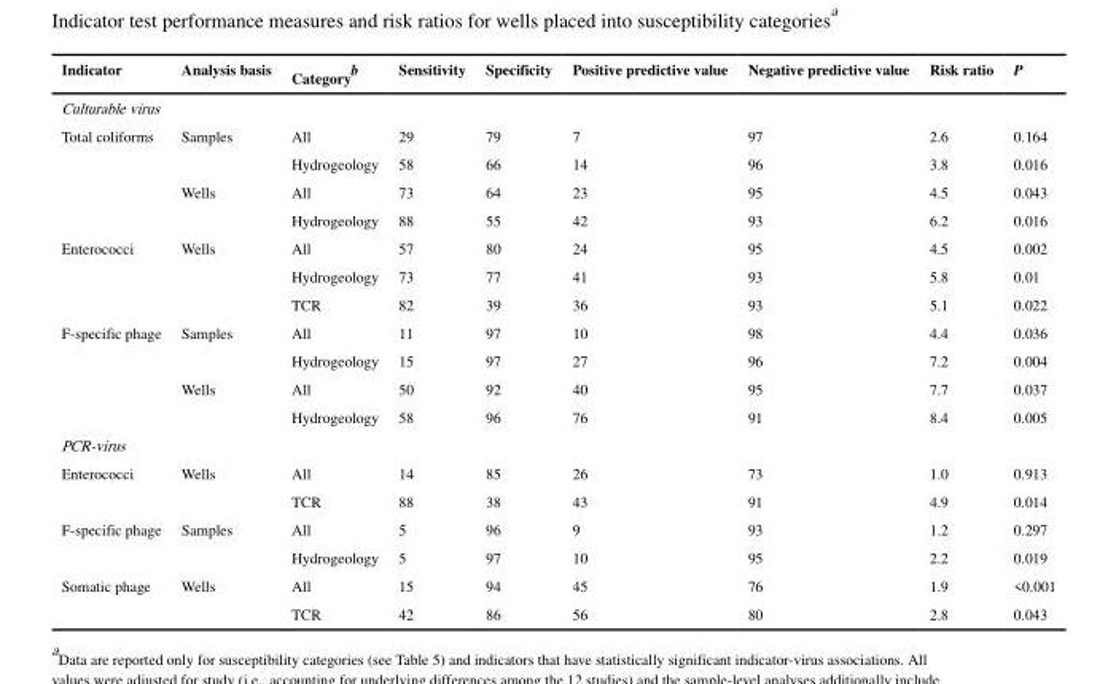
<table><thead><tr><td>Indicator</td><td>Analysis basis</td><td>Category<sup>b</sup></td><td>Sensitivity</td><td>Specificity</td><td>Positive predictive value</td><td>Negative predictive value</td><td>Risk ratio</td><td>P</td></tr></thead><tbody><tr><td colspan="9">Culturable virus</td></tr><tr><td rowspan="4">Total coliforms</td><td>Samples</td><td>All</td><td>29</td><td>79</td><td>7</td><td>97</td><td>2.6</td><td>0.164</td></tr><tr><td></td><td>Hydrogeology</td><td>58</td><td>66</td><td>14</td><td>96</td><td>3.8</td><td>0.016</td></tr><tr><td>Wells</td><td>All</td><td>73</td><td>64</td><td>23</td><td>95</td><td>4.5</td><td>0.043</td></tr><tr><td></td><td>Hydrogeology</td><td>88</td><td>55</td><td>42</td><td>93</td><td>6.2</td><td>0.016</td></tr><tr><td rowspan="3">Enterococci</td><td>Wells</td><td>All</td><td>57</td><td>80</td><td>24</td><td>95</td><td>4.5</td><td>0.002</td></tr><tr><td></td><td>Hydrogeology</td><td>73</td><td>77</td><td>41</td><td>93</td><td>5.8</td><td>0.01</td></tr><tr><td></td><td>TCR</td><td>82</td><td>39</td><td>36</td><td>93</td><td>5.1</td><td>0.022</td></tr><tr><td rowspan="4">F-specific phage</td><td>Samples</td><td>All</td><td>11</td><td>97</td><td>10</td><td>98</td><td>4.4</td><td>0.036</td></tr><tr><td></td><td>Hydrogeology</td><td>15</td><td>97</td><td>27</td><td>96</td><td>7.2</td><td>0.004</td></tr><tr><td>Wells</td><td>All</td><td>50</td><td>92</td><td>40</td><td>95</td><td>7.7</td><td>0.037</td></tr><tr><td></td><td>Hydrogeology</td><td>58</td><td>96</td><td>76</td><td>91</td><td>8.4</td><td>0.005</td></tr><tr><td colspan="9">PCR-virus</td></tr><tr><td rowspan="2">Enterococci</td><td>Wells</td><td>All</td><td>14</td><td>85</td><td>26</td><td>73</td><td>1.0</td><td>0.913</td></tr><tr><td></td><td>TCR</td><td>88</td><td>38</td><td>43</td><td>91</td><td>4.9</td><td>0.014</td></tr><tr><td rowspan="2">F-specific phage</td><td>Samples</td><td>All</td><td>5</td><td>96</td><td>9</td><td>93</td><td>1.2</td><td>0.297</td></tr><tr><td></td><td>Hydrogeology</td><td>5</td><td>97</td><td>10</td><td>95</td><td>2.2</td><td>0.019</td></tr><tr><td rowspan="2">Somatic phage</td><td>Wells</td><td>All</td><td>15</td><td>94</td><td>45</td><td>76</td><td>1.9</td><td>&lt;0.001</td></tr><tr><td></td><td>TCR</td><td>42</td><td>86</td><td>56</td><td>80</td><td>2.8</td><td>0.043</td></tr></tbody></table>